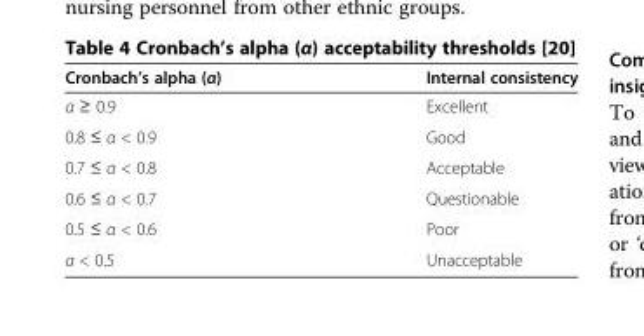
<table><thead><tr><td>Cronbach’s alpha (α)</td><td>Internal consistency</td></tr></thead><tbody><tr><td>α ≥ 0.9</td><td>Excellent</td></tr><tr><td>0.8 ≤ α &lt; 0.9</td><td>Good</td></tr><tr><td>0.7 ≤ α &lt; 0.8</td><td>Acceptable</td></tr><tr><td>0.6 ≤ α &lt; 0.7</td><td>Questionable</td></tr><tr><td>0.5 ≤ α &lt; 0.6</td><td>Poor</td></tr><tr><td>α &lt; 0.5</td><td>Unacceptable</td></tr></tbody></table>